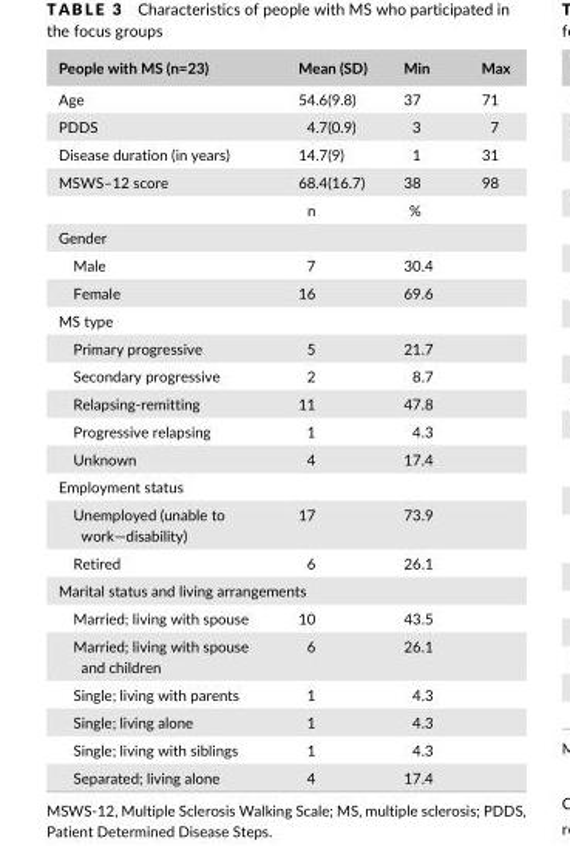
<table><thead><tr><td>People with MS (n=23)</td><td>Mean (SD)</td><td>Min</td><td>Max</td></tr></thead><tbody><tr><td>Age</td><td>54.6(9.8)</td><td>37</td><td>71</td></tr><tr><td>PDDS</td><td>4.7(0.9)</td><td>3</td><td>7</td></tr><tr><td>Disease duration (in years)</td><td>14.7(9)</td><td>1</td><td>31</td></tr><tr><td rowspan="2">MSWS–12 score</td><td>68.4(16.7)</td><td>38</td><td>98</td></tr><tr><td>n</td><td>%</td><td></td></tr><tr><td colspan="4">Gender</td></tr><tr><td>Male</td><td>7</td><td>30.4</td><td></td></tr><tr><td>Female</td><td>16</td><td>69.6</td><td></td></tr><tr><td colspan="4">MS type</td></tr><tr><td>Primary progressive</td><td>5</td><td>21.7</td><td></td></tr><tr><td>Secondary progressive</td><td>2</td><td>8.7</td><td></td></tr><tr><td>Relapsing- remitting</td><td>11</td><td>47.8</td><td></td></tr><tr><td>Progressive relapsing</td><td>1</td><td>4.3</td><td></td></tr><tr><td>Unknown</td><td>4</td><td>17.4</td><td></td></tr><tr><td colspan="4">Employment status</td></tr><tr><td>Unemployed (unable to work—disability)</td><td>17</td><td>73.9</td><td></td></tr><tr><td>Retired</td><td>6</td><td>26.1</td><td></td></tr><tr><td colspan="4">Marital status and living arrangements</td></tr><tr><td>Married; living with spouse</td><td>10</td><td>43.5</td><td></td></tr><tr><td>Married; living with spouse and children</td><td>6</td><td>26.1</td><td></td></tr><tr><td>Single; living with parents</td><td>1</td><td>4.3</td><td></td></tr><tr><td>Single; living alone</td><td>1</td><td>4.3</td><td></td></tr><tr><td>Single; living with siblings</td><td>1</td><td>4.3</td><td></td></tr><tr><td>Separated; living alone</td><td>4</td><td>17.4</td><td></td></tr></tbody></table>